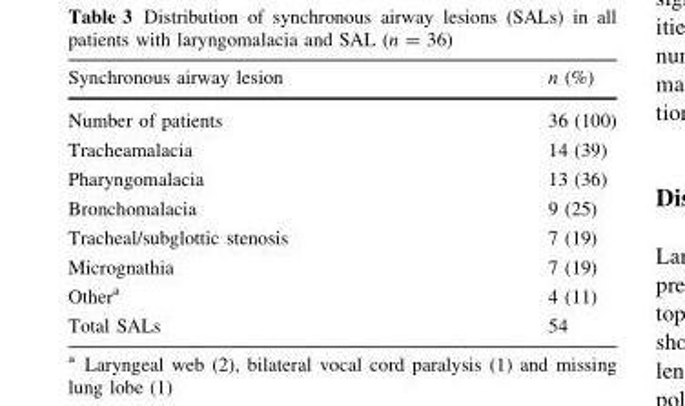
<table><thead><tr><td>Synchronous airway lesion</td><td>n (%)</td></tr></thead><tbody><tr><td>Number of patients</td><td>36 (100)</td></tr><tr><td>Tracheamalacia</td><td>14 (39)</td></tr><tr><td>Pharyngomalacia</td><td>13 (36)</td></tr><tr><td>Bronchomalacia</td><td>9 (25)</td></tr><tr><td>Tracheal/subglottic stenosis</td><td>7 (19)</td></tr><tr><td>Micrognathia</td><td>7 (19)</td></tr><tr><td>Other<sup>a</sup></td><td>4 (11)</td></tr><tr><td>Total SALs</td><td>54</td></tr></tbody></table>